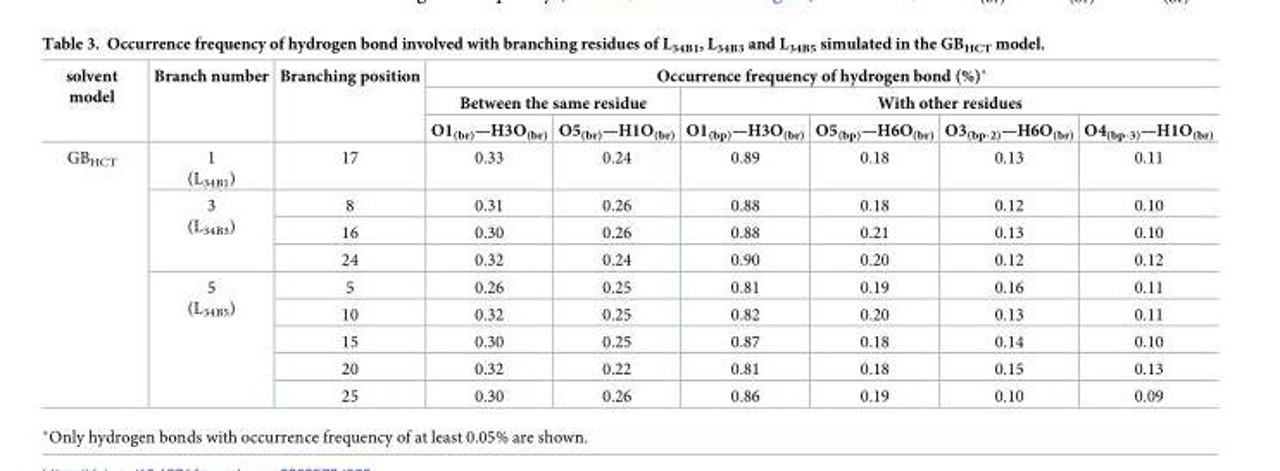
<table><thead><tr><td rowspan="3">solvent model</td><td rowspan="3">Branch number</td><td rowspan="3">Branching position</td><td colspan="6">Occurrence frequency of hydrogen bond (%)*</td></tr><tr><td colspan="2">Between the same residue</td><td colspan="4">With other residues</td></tr><tr><td>O1<sub>(br)</sub>—H3O<sub>(br)</sub></td><td>O5<sub>(br)</sub>—H1O<sub>(br)</sub></td><td>O1<sub>(bp)</sub>—H3O<sub>(br)</sub></td><td>O5<sub>(bp)</sub>—H6O<sub>(br)</sub></td><td>O3<sub>(bp-2)</sub>—H6O<sub>(br)</sub></td><td>O4<sub>(bp-3)</sub>—H1O<sub>(br)</sub></td></tr></thead><tbody><tr><td rowspan="9">GB<sub>HCT</sub></td><td>1 (L<sub>34B1</sub>)</td><td>17</td><td>0.33</td><td>0.24</td><td>0.89</td><td>0.18</td><td>0.13</td><td>0.11</td></tr><tr><td rowspan="3">3 (L<sub>34B3</sub>)</td><td>8</td><td>0.31</td><td>0.26</td><td>0.88</td><td>0.18</td><td>0.12</td><td>0.10</td></tr><tr><td>16</td><td>0.30</td><td>0.26</td><td>0.88</td><td>0.21</td><td>0.13</td><td>0.10</td></tr><tr><td>24</td><td>0.32</td><td>0.24</td><td>0.90</td><td>0.20</td><td>0.12</td><td>0.12</td></tr><tr><td rowspan="5">5 (L<sub>34B5</sub>)</td><td>5</td><td>0.26</td><td>0.25</td><td>0.81</td><td>0.19</td><td>0.16</td><td>0.11</td></tr><tr><td>10</td><td>0.32</td><td>0.25</td><td>0.82</td><td>0.20</td><td>0.13</td><td>0.11</td></tr><tr><td>15</td><td>0.30</td><td>0.25</td><td>0.87</td><td>0.18</td><td>0.14</td><td>0.10</td></tr><tr><td>20</td><td>0.32</td><td>0.22</td><td>0.81</td><td>0.18</td><td>0.15</td><td>0.13</td></tr><tr><td>25</td><td>0.30</td><td>0.26</td><td>0.86</td><td>0.19</td><td>0.10</td><td>0.09</td></tr></tbody></table>